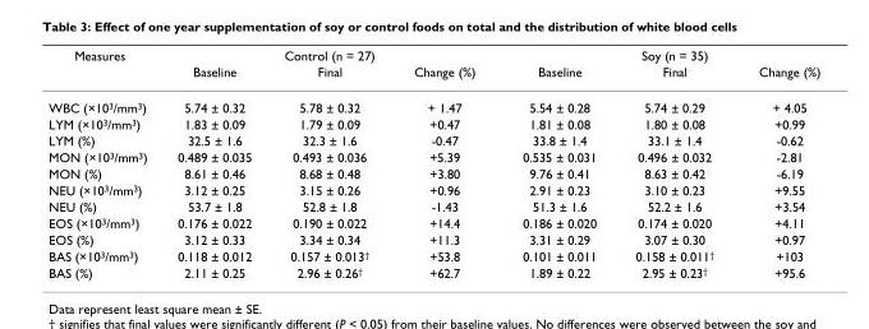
<table><thead><tr><td rowspan="2">Measures</td><td colspan="3">Control (n = 27)</td><td colspan="3">Soy (n = 35)</td></tr><tr><td>Baseline</td><td>Final</td><td>Change (%)</td><td>Baseline</td><td>Final</td><td>Change (%)</td></tr></thead><tbody><tr><td>WBC (×10<sup>3</sup>/mm<sup>3</sup>)</td><td>5.74 ± 0.32</td><td>5.78 ± 0.32</td><td>+ 1.47</td><td>5.54 ± 0.28</td><td>5.74 ± 0.29</td><td>+ 4.05</td></tr><tr><td>LYM (×10<sup>3</sup>/mm<sup>3</sup>)</td><td>1.83 ± 0.09</td><td>1.79 ± 0.09</td><td>+0.47</td><td>1.81 ± 0.08</td><td>1.80 ± 0.08</td><td>+0.99</td></tr><tr><td>LYM (%)</td><td>32.5 ± 1.6</td><td>32.3 ± 1.6</td><td>-0.47</td><td>33.8 ± 1.4</td><td>33.1 ± 1.4</td><td>-0.62</td></tr><tr><td>MON (×10<sup>3</sup>/mm<sup>3</sup>)</td><td>0.489 ± 0.035</td><td>0.493 ± 0.036</td><td>+5.39</td><td>0.535 ± 0.031</td><td>0.496 ± 0.032</td><td>-2.81</td></tr><tr><td>MON (%)</td><td>8.61 ± 0.46</td><td>8.68 ± 0.48</td><td>+3.80</td><td>9.76 ± 0.41</td><td>8.63 ± 0.42</td><td>-6.19</td></tr><tr><td>NEU (×10<sup>3</sup>/mm<sup>3</sup>)</td><td>3.12 ± 0.25</td><td>3.15 ± 0.26</td><td>+0.96</td><td>2.91 ± 0.23</td><td>3.10 ± 0.23</td><td>+9.55</td></tr><tr><td>NEU (%)</td><td>53.7 ± 1.8</td><td>52.8 ± 1.8</td><td>-1.43</td><td>51.3 ± 1.6</td><td>52.2 ± 1.6</td><td>+3.54</td></tr><tr><td>EOS (×10<sup>3</sup>/mm<sup>3</sup>)</td><td>0.176 ± 0.022</td><td>0.190 ± 0.022</td><td>+14.4</td><td>0.186 ± 0.020</td><td>0.174 ± 0.020</td><td>+4.11</td></tr><tr><td>EOS (%)</td><td>3.12 ± 0.33</td><td>3.34 ± 0.34</td><td>+11.3</td><td>3.31 ± 0.29</td><td>3.07 ± 0.30</td><td>+0.97</td></tr><tr><td>BAS (×10<sup>3</sup>/mm<sup>3</sup>)</td><td>0.118 ± 0.012</td><td>0.157 ± 0.013<sup>†</sup></td><td>+53.8</td><td>0.101 ± 0.011</td><td>0.158 ± 0.011<sup>†</sup></td><td>+103</td></tr><tr><td>BAS (%)</td><td>2.11 ± 0.25</td><td>2.96 ± 0.26<sup>†</sup></td><td>+62.7</td><td>1.89 ± 0.22</td><td>2.95 ± 0.23<sup>†</sup></td><td>+95.6</td></tr></tbody></table>